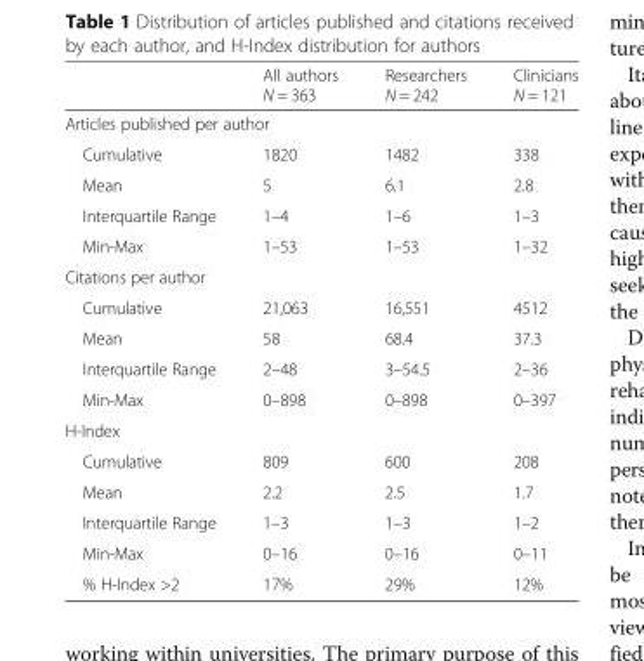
<table><thead><tr><td></td><td>All authors N = 363</td><td>Researchers N = 242</td><td>Clinicians N = 121</td></tr></thead><tbody><tr><td colspan="4">Articles published per author</td></tr><tr><td>Cumulative</td><td>1820</td><td>1482</td><td>338</td></tr><tr><td>Mean</td><td>5</td><td>6.1</td><td>2.8</td></tr><tr><td>Interquartile Range</td><td>1–4</td><td>1–6</td><td>1–3</td></tr><tr><td>Min-Max</td><td>1–53</td><td>1–53</td><td>1–32</td></tr><tr><td colspan="4">Citations per author</td></tr><tr><td>Cumulative</td><td>21,063</td><td>16,551</td><td>4512</td></tr><tr><td>Mean</td><td>58</td><td>68.4</td><td>37.3</td></tr><tr><td>Interquartile Range</td><td>2–48</td><td>3–54.5</td><td>2–36</td></tr><tr><td>Min-Max</td><td>0–898</td><td>0–898</td><td>0–397</td></tr><tr><td colspan="4">H-Index</td></tr><tr><td>Cumulative</td><td>809</td><td>600</td><td>208</td></tr><tr><td>Mean</td><td>2.2</td><td>2.5</td><td>1.7</td></tr><tr><td>Interquartile Range</td><td>1–3</td><td>1–3</td><td>1–2</td></tr><tr><td>Min-Max</td><td>0–16</td><td>0–16</td><td>0–11</td></tr><tr><td>% H-Index &gt;2</td><td>17%</td><td>29%</td><td>12%</td></tr></tbody></table>